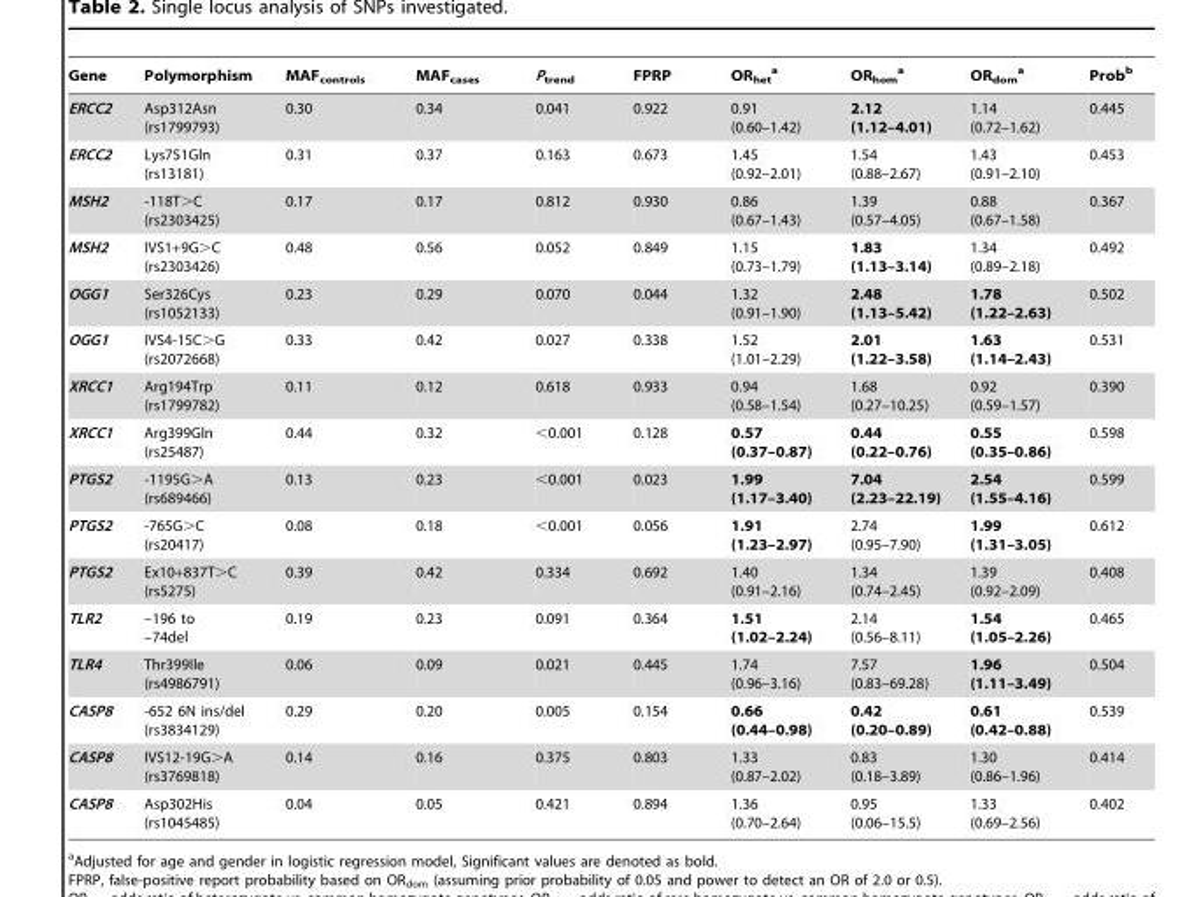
<table><thead><tr><td>Gene</td><td>Polymorphism</td><td>MAF<sub>controls</sub></td><td>MAF<sub>cases</sub></td><td>P<sub>trend</sub></td><td>FPRP</td><td>OR<sub>het</sub> a</td><td>OR<sub>hom</sub> a</td><td>OR<sub>dom</sub> a</td><td>Prob<sup>b</sup></td></tr></thead><tbody><tr><td>ERCC2</td><td>Asp312Asn (rs1799793)</td><td>0.30</td><td>0.34</td><td>0.041</td><td>0.922</td><td>0.91 (0.60–1.42)</td><td>2.12 (1.12–4.01)</td><td>1.14 (0.72–1.62)</td><td>0.445</td></tr><tr><td>ERCC2</td><td>Lys751Gln (rs13181)</td><td>0.31</td><td>0.37</td><td>0.163</td><td>0.673</td><td>1.45 (0.92–2.01)</td><td>1.54 (0.88–2.67)</td><td>1.43 (0.91–2.10)</td><td>0.453</td></tr><tr><td>MSH2</td><td>-118T&gt;C (rs2303425)</td><td>0.17</td><td>0.17</td><td>0.812</td><td>0.930</td><td>0.86 (0.67–1.43)</td><td>1.39 (0.57–4.05)</td><td>0.88 (0.67–1.58)</td><td>0.367</td></tr><tr><td>MSH2</td><td>IVS1+9G&gt;C (rs2303426)</td><td>0.48</td><td>0.56</td><td>0.052</td><td>0.849</td><td>1.15 (0.73–1.79)</td><td>1.83 (1.13–3.14)</td><td>1.34 (0.89–2.18)</td><td>0.492</td></tr><tr><td>OGG1</td><td>Ser326Cys (rs1052133)</td><td>0.23</td><td>0.29</td><td>0.070</td><td>0.044</td><td>1.32 (0.91–1.90)</td><td>2.48 (1.13–5.42)</td><td>1.78 (1.22–2.63)</td><td>0.502</td></tr><tr><td>OGG1</td><td>IVS4-15C&gt;G (rs2072668)</td><td>0.33</td><td>0.42</td><td>0.027</td><td>0.338</td><td>1.52 (1.01–2.29)</td><td>2.01 (1.22–3.58)</td><td>1.63 (1.14–2.43)</td><td>0.531</td></tr><tr><td>XRCC1</td><td>Arg194Trp (rs1799782)</td><td>0.11</td><td>0.12</td><td>0.618</td><td>0.933</td><td>0.94 (0.58–1.54)</td><td>1.68 (0.27–10.25)</td><td>0.92 (0.59–1.57)</td><td>0.390</td></tr><tr><td>XRCC1</td><td>Arg399Gln (rs25487)</td><td>0.44</td><td>0.32</td><td>&lt;0.001</td><td>0.128</td><td>0.57 (0.37–0.87)</td><td>0.44 (0.22–0.76)</td><td>0.55 (0.35–0.86)</td><td>0.598</td></tr><tr><td>PTGS2</td><td>-1195G&gt;A (rs689466)</td><td>0.13</td><td>0.23</td><td>&lt;0.001</td><td>0.023</td><td>1.99 (1.17–3.40)</td><td>7.04 (2.23–22.19)</td><td>2.54 (1.55–4.16)</td><td>0.599</td></tr><tr><td>PTGS2</td><td>-765G&gt;C (rs20417)</td><td>0.08</td><td>0.18</td><td>&lt;0.001</td><td>0.056</td><td>1.91 (1.23–2.97)</td><td>2.74 (0.95–7.90)</td><td>1.99 (1.31–3.05)</td><td>0.612</td></tr><tr><td>PTGS2</td><td>Ex10+837T&gt;C (rs5275)</td><td>0.39</td><td>0.42</td><td>0.334</td><td>0.692</td><td>1.40 (0.91–2.16)</td><td>1.34 (0.74–2.45)</td><td>1.39 (0.92–2.09)</td><td>0.408</td></tr><tr><td>TLR2</td><td>–196 to –74del</td><td>0.19</td><td>0.23</td><td>0.091</td><td>0.364</td><td>1.51 (1.02–2.24)</td><td>2.14 (0.56–8.11)</td><td>1.54 (1.05–2.26)</td><td>0.465</td></tr><tr><td>TLR4</td><td>Thr399Ile (rs4986791)</td><td>0.06</td><td>0.09</td><td>0.021</td><td>0.445</td><td>1.74 (0.96–3.16)</td><td>7.57 (0.83–69.28)</td><td>1.96 (1.11–3.49)</td><td>0.504</td></tr><tr><td>CASP8</td><td>-652 6N ins/del (rs3834129)</td><td>0.29</td><td>0.20</td><td>0.005</td><td>0.154</td><td>0.66 (0.44–0.98)</td><td>0.42 (0.20–0.89)</td><td>0.61 (0.42–0.88)</td><td>0.539</td></tr><tr><td>CASP8</td><td>IVS12-19G&gt;A (rs3769818)</td><td>0.14</td><td>0.16</td><td>0.375</td><td>0.803</td><td>1.33 (0.87–2.02)</td><td>0.83 (0.18–3.89)</td><td>1.30 (0.86–1.96)</td><td>0.414</td></tr><tr><td>CASP8</td><td>Asp302His (rs1045485)</td><td>0.04</td><td>0.05</td><td>0.421</td><td>0.894</td><td>1.36 (0.70–2.64)</td><td>0.95 (0.06–15.5)</td><td>1.33 (0.69–2.56)</td><td>0.402</td></tr></tbody></table>